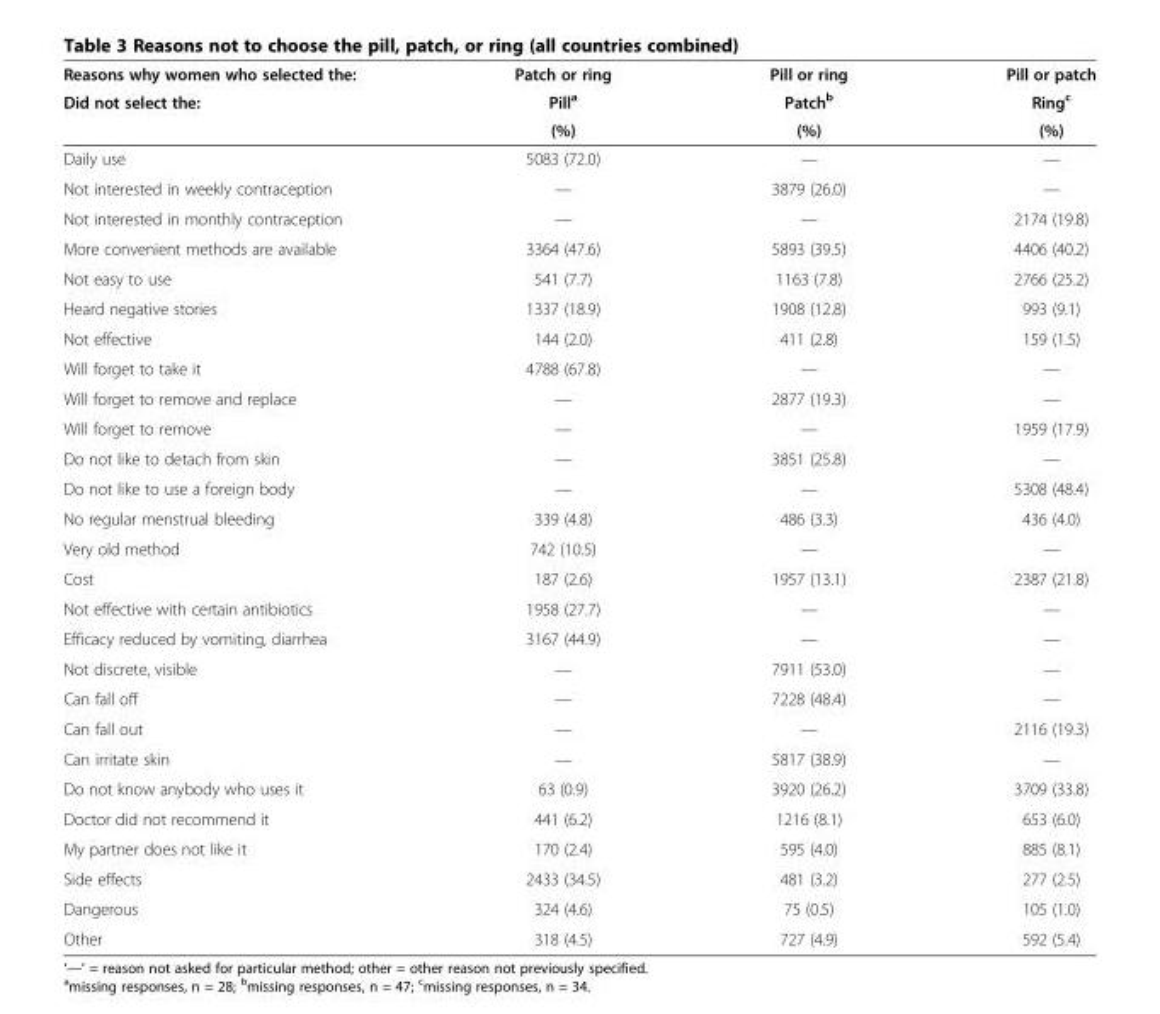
<table><thead><tr><td rowspan="3">Reasons why women who selected the: Did not select the:</td><td rowspan="3">Patch or ring Pill<sup>a</sup> (%)</td><td rowspan="3">Pill or ring Patch<sup>b</sup> (%)</td><td rowspan="3">Pill or patch Ring<sup>c</sup> (%)</td></tr><tr></tr><tr></tr></thead><tbody><tr><td>Daily use</td><td>5083 (72.0)</td><td>—</td><td>—</td></tr><tr><td>Not interested in weekly contraception</td><td>—</td><td>3879 (26.0)</td><td>—</td></tr><tr><td>Not interested in monthly contraception</td><td>—</td><td>—</td><td>2174 (19.8)</td></tr><tr><td>More convenient methods are available</td><td>3364 (47.6)</td><td>5893 (39.5)</td><td>4406 (40.2)</td></tr><tr><td>Not easy to use</td><td>541 (7.7)</td><td>1163 (7.8)</td><td>2766 (25.2)</td></tr><tr><td>Heard negative stories</td><td>1337 (18.9)</td><td>1908 (12.8)</td><td>993 (9.1)</td></tr><tr><td>Not effective</td><td>144 (2.0)</td><td>411 (2.8)</td><td>159 (1.5)</td></tr><tr><td>Will forget to take it</td><td>4788 (67.8)</td><td>—</td><td>—</td></tr><tr><td>Will forget to remove and replace</td><td>—</td><td>2877 (19.3)</td><td>—</td></tr><tr><td>Will forget to remove</td><td>—</td><td>—</td><td>1959 (17.9)</td></tr><tr><td>Do not like to detach from skin</td><td>—</td><td>3851 (25.8)</td><td>—</td></tr><tr><td>Do not like to use a foreign body</td><td>—</td><td>—</td><td>5308 (48.4)</td></tr><tr><td>No regular menstrual bleeding</td><td>339 (4.8)</td><td>486 (3.3)</td><td>436 (4.0)</td></tr><tr><td>Very old method</td><td>742 (10.5)</td><td>—</td><td>—</td></tr><tr><td>Cost</td><td>187 (2.6)</td><td>1957 (13.1)</td><td>2387 (21.8)</td></tr><tr><td>Not effective with certain antibiotics</td><td>1958 (27.7)</td><td>—</td><td>—</td></tr><tr><td>Efficacy reduced by vomiting, diarrhea</td><td>3167 (44.9)</td><td>—</td><td>—</td></tr><tr><td>Not discrete, visible</td><td>—</td><td>7911 (53.0)</td><td>—</td></tr><tr><td>Can fall off</td><td>—</td><td>7228 (48.4)</td><td>—</td></tr><tr><td>Can fall out</td><td>—</td><td>—</td><td>2116 (19.3)</td></tr><tr><td>Can irritate skin</td><td>—</td><td>5817 (38.9)</td><td>—</td></tr><tr><td>Do not know anybody who uses it</td><td>63 (0.9)</td><td>3920 (26.2)</td><td>3709 (33.8)</td></tr><tr><td>Doctor did not recommend it</td><td>441 (6.2)</td><td>1216 (8.1)</td><td>653 (6.0)</td></tr><tr><td>My partner does not like it</td><td>170 (2.4)</td><td>595 (4.0)</td><td>885 (8.1)</td></tr><tr><td>Side effects</td><td>2433 (34.5)</td><td>481 (3.2)</td><td>277 (2.5)</td></tr><tr><td>Dangerous</td><td>324 (4.6)</td><td>75 (0.5)</td><td>105 (1.0)</td></tr><tr><td>Other</td><td>318 (4.5)</td><td>727 (4.9)</td><td>592 (5.4)</td></tr></tbody></table>